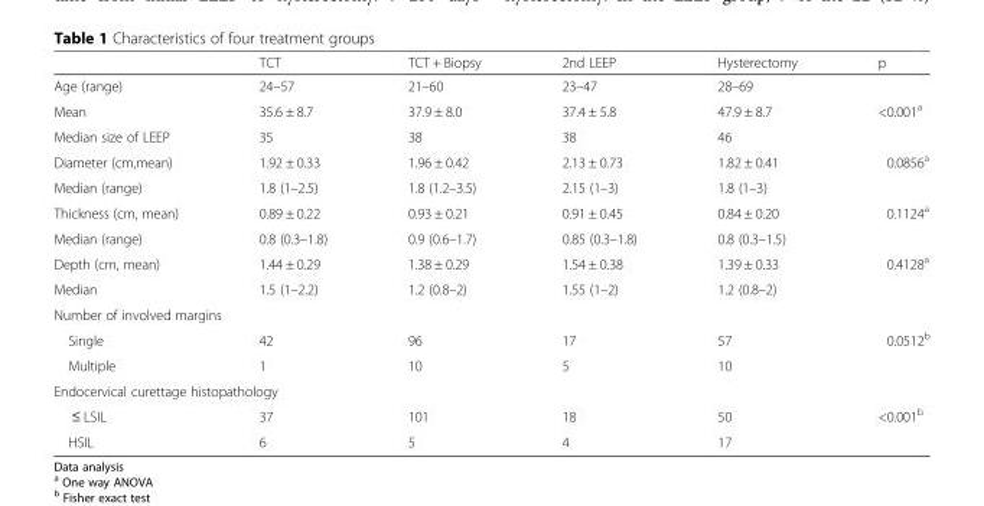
<table><thead><tr><td></td><td>TCT</td><td>TCT + Biopsy</td><td>2nd LEEP</td><td>Hysterectomy</td><td>p</td></tr></thead><tbody><tr><td>Age (range)</td><td>24–57</td><td>21–60</td><td>23–47</td><td>28–69</td><td></td></tr><tr><td>Mean</td><td>35.6 ± 8.7</td><td>37.9 ± 8.0</td><td>37.4 ± 5.8</td><td>47.9 ± 8.7</td><td>&lt;0.001<sup>a</sup></td></tr><tr><td>Median size of LEEP</td><td>35</td><td>38</td><td>38</td><td>46</td><td></td></tr><tr><td>Diameter (cm,mean)</td><td>1.92 ± 0.33</td><td>1.96 ± 0.42</td><td>2.13 ± 0.73</td><td>1.82 ± 0.41</td><td>0.0856<sup>a</sup></td></tr><tr><td>Median (range)</td><td>1.8 (1–2.5)</td><td>1.8 (1.2–3.5)</td><td>2.15 (1–3)</td><td>1.8 (1–3)</td><td></td></tr><tr><td>Thickness (cm, mean)</td><td>0.89 ± 0.22</td><td>0.93 ± 0.21</td><td>0.91 ± 0.45</td><td>0.84 ± 0.20</td><td>0.1124<sup>a</sup></td></tr><tr><td>Median (range)</td><td>0.8 (0.3–1.8)</td><td>0.9 (0.6–1.7)</td><td>0.85 (0.3–1.8)</td><td>0.8 (0.3–1.5)</td><td></td></tr><tr><td>Depth (cm, mean)</td><td>1.44 ± 0.29</td><td>1.38 ± 0.29</td><td>1.54 ± 0.38</td><td>1.39 ± 0.33</td><td>0.4128<sup>a</sup></td></tr><tr><td>Median</td><td>1.5 (1–2.2)</td><td>1.2 (0.8–2)</td><td>1.55 (1–2)</td><td>1.2 (0.8–2)</td><td></td></tr><tr><td colspan="6">Number of involved margins</td></tr><tr><td>Single</td><td>42</td><td>96</td><td>17</td><td>57</td><td>0.0512<sup>b</sup></td></tr><tr><td>Multiple</td><td>1</td><td>10</td><td>5</td><td>10</td><td></td></tr><tr><td colspan="6">Endocervical curettage histopathology</td></tr><tr><td>≤ LSIL</td><td>37</td><td>101</td><td>18</td><td>50</td><td>&lt;0.001<sup>b</sup></td></tr><tr><td>HSIL</td><td>6</td><td>5</td><td>4</td><td>17</td><td></td></tr></tbody></table>